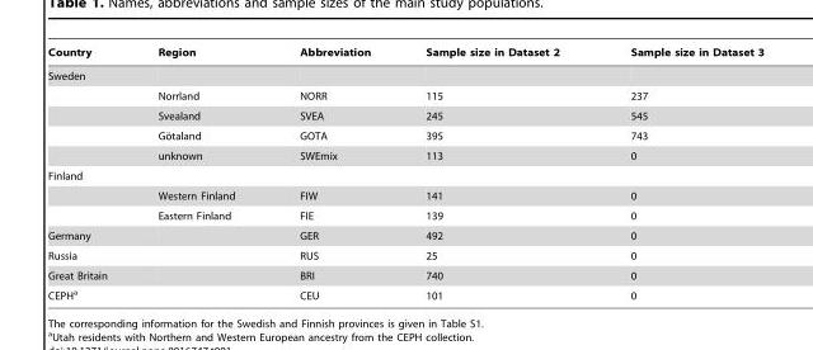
<table><thead><tr><td>Country</td><td>Region</td><td>Abbreviation</td><td>Sample size in Dataset 2</td><td>Sample size in Dataset 3</td></tr></thead><tbody><tr><td colspan="5">Sweden</td></tr><tr><td></td><td>Norrland</td><td>NORR</td><td>115</td><td>237</td></tr><tr><td></td><td>Svealand</td><td>SVEA</td><td>245</td><td>545</td></tr><tr><td></td><td>Go¨taland</td><td>GOTA</td><td>395</td><td>743</td></tr><tr><td></td><td>unknown</td><td>SWEmix</td><td>113</td><td>0</td></tr><tr><td colspan="5">Finland</td></tr><tr><td></td><td>Western Finland</td><td>FIW</td><td>141</td><td>0</td></tr><tr><td></td><td>Eastern Finland</td><td>FIE</td><td>139</td><td>0</td></tr><tr><td>Germany</td><td></td><td>GER</td><td>492</td><td>0</td></tr><tr><td>Russia</td><td></td><td>RUS</td><td>25</td><td>0</td></tr><tr><td>Great Britain</td><td></td><td>BRI</td><td>740</td><td>0</td></tr><tr><td>CEPH<sup>a</sup></td><td></td><td>CEU</td><td>101</td><td>0</td></tr></tbody></table>